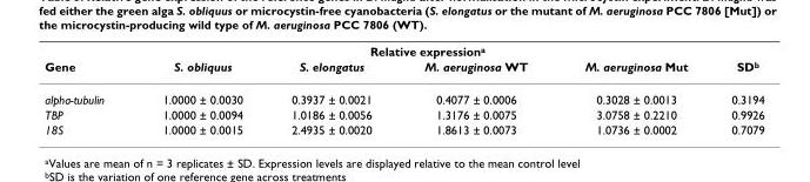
<table><thead><tr><td rowspan="2">Gene</td><td colspan="4">Relative expression<sup>a</sup></td><td rowspan="2">SD<sup>b</sup></td></tr><tr><td>S. obliquus</td><td>S. elongatus</td><td>M. aeruginosa WT</td><td>M. aeruginosa Mut</td></tr></thead><tbody><tr><td>alpha-tubulin</td><td>1.0000 ± 0.0030</td><td>0.3937 ± 0.0021</td><td>0.4077 ± 0.0006</td><td>0.3028 ± 0.0013</td><td>0.3194</td></tr><tr><td>TBP</td><td>1.0000 ± 0.0094</td><td>1.0186 ± 0.0056</td><td>1.3176 ± 0.0075</td><td>3.0758 ± 0.2210</td><td>0.9926</td></tr><tr><td>18S</td><td>1.0000 ± 0.0015</td><td>2.4935 ± 0.0020</td><td>1.8613 ± 0.0073</td><td>1.0736 ± 0.0002</td><td>0.7079</td></tr></tbody></table>